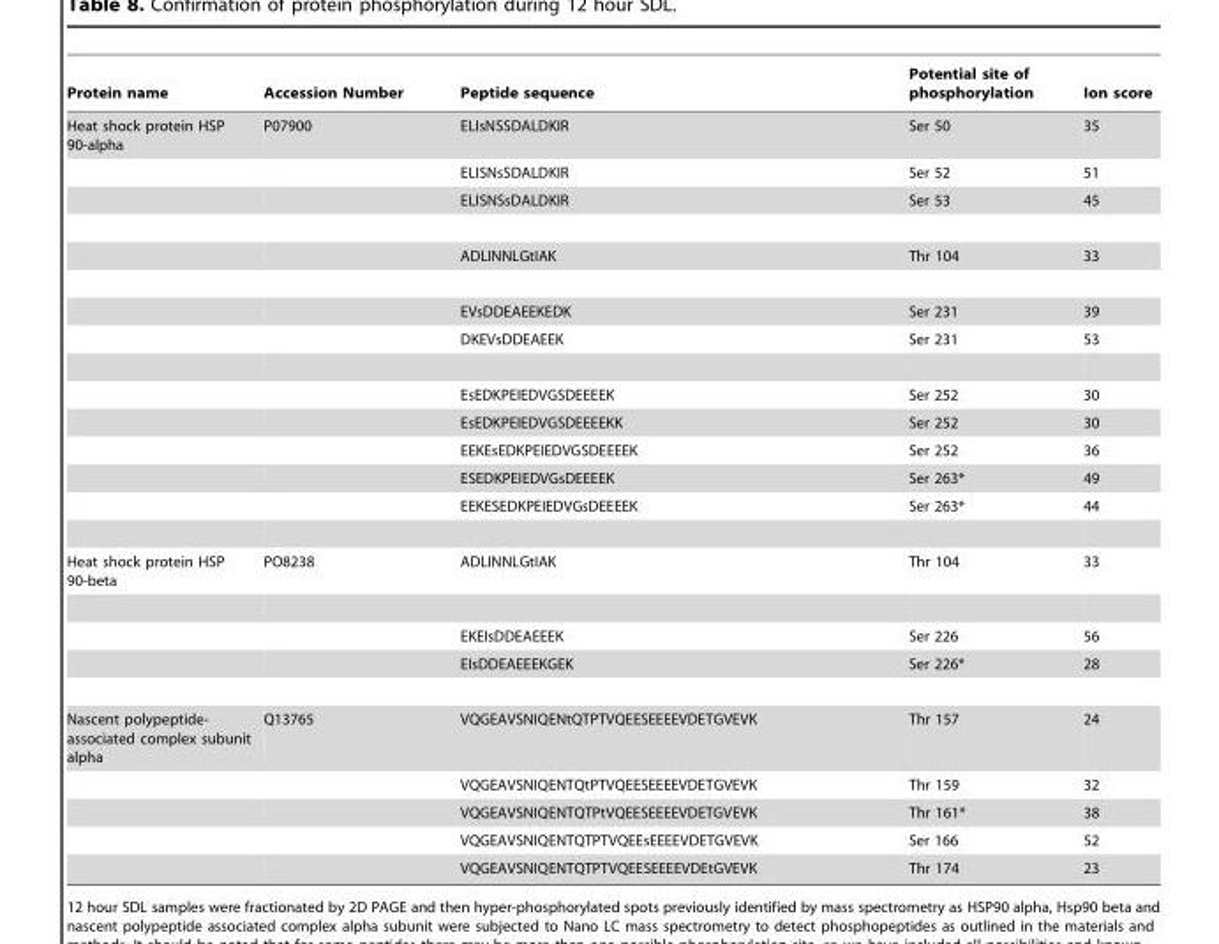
<table><thead><tr><td>Protein name</td><td>Accession Number</td><td>Peptide sequence</td><td>Potential site of phosphorylation</td><td>Ion score</td></tr></thead><tbody><tr><td rowspan="11">Heat shock protein HSP 90-alpha</td><td>P07900</td><td>ELIsNSSDALDKIR</td><td>Ser 50</td><td>35</td></tr><tr><td></td><td>ELISNsSDALDKIR</td><td>Ser 52</td><td>51</td></tr><tr><td></td><td>ELISNSsDALDKIR</td><td>Ser 53</td><td>45</td></tr><tr><td></td><td>ADLINNLGtIAK</td><td>Thr 104</td><td>33</td></tr><tr><td></td><td>EVsDDEAEEKEDK</td><td>Ser 231</td><td>39</td></tr><tr><td></td><td>DKEVsDDEAEEK</td><td>Ser 231</td><td>53</td></tr><tr><td></td><td>EsEDKPEIEDVGSDEEEEK</td><td>Ser 252</td><td>30</td></tr><tr><td></td><td>EsEDKPEIEDVGSDEEEEKK</td><td>Ser 252</td><td>30</td></tr><tr><td></td><td>EEKEsEDKPEIEDVGSDEEEEK</td><td>Ser 252</td><td>36</td></tr><tr><td></td><td>ESEDKPEIEDVGsDEEEEK</td><td>Ser 263*</td><td>49</td></tr><tr><td></td><td>EEKESEDKPEIEDVGsDEEEEK</td><td>Ser 263*</td><td>44</td></tr><tr><td rowspan="3">Heat shock protein HSP 90-beta</td><td>PO8238</td><td>ADLINNLGtIAK</td><td>Thr 104</td><td>33</td></tr><tr><td></td><td>EKEIsDDEAEEEK</td><td>Ser 226</td><td>56</td></tr><tr><td></td><td>EIsDDEAEEEKGEK</td><td>Ser 226*</td><td>28</td></tr><tr><td rowspan="5">Nascent polypeptide- associated complex subunit alpha</td><td>Q13765</td><td>VQGEAVSNIQENtQTPTVQEESEEEEVDETGVEVK</td><td>Thr 157</td><td>24</td></tr><tr><td></td><td>VQGEAVSNIQENTQtPTVQEESEEEEVDETGVEVK</td><td>Thr 159</td><td>32</td></tr><tr><td></td><td>VQGEAVSNIQENTQTPtVQEESEEEEVDETGVEVK</td><td>Thr 161*</td><td>38</td></tr><tr><td></td><td>VQGEAVSNIQENTQTPTVQEEsEEEEVDETGVEVK</td><td>Ser 166</td><td>52</td></tr><tr><td></td><td>VQGEAVSNIQENTQTPTVQEESEEEEVDEtGVEVK</td><td>Thr 174</td><td>23</td></tr></tbody></table>